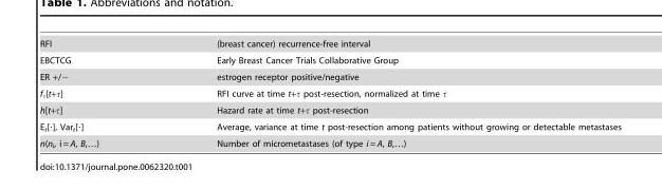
<table><tbody><tr><td>RFI</td><td>(breast cancer) recurrence-free interval</td></tr><tr><td>EBCTCG</td><td>Early Breast Cancer Trials Collaborative Group</td></tr><tr><td>ER +/−</td><td>estrogen receptor positive/negative</td></tr><tr><td>f<sub>τ</sub>[t+τ]</td><td>RFI curve at time t+τ post-resection, normalized at time τ</td></tr><tr><td>h[t+τ]</td><td>Hazard rate at time t+τ post-resection</td></tr><tr><td>E<sub>t</sub>[·], Var<sub>t</sub>[·]</td><td>Average, variance at time t post-resection among patients without growing or detectable metastases</td></tr><tr><td>n(n<sub>i</sub>, i = A, B,…)</td><td>Number of micrometastases (of type i = A, B,…)</td></tr></tbody></table>